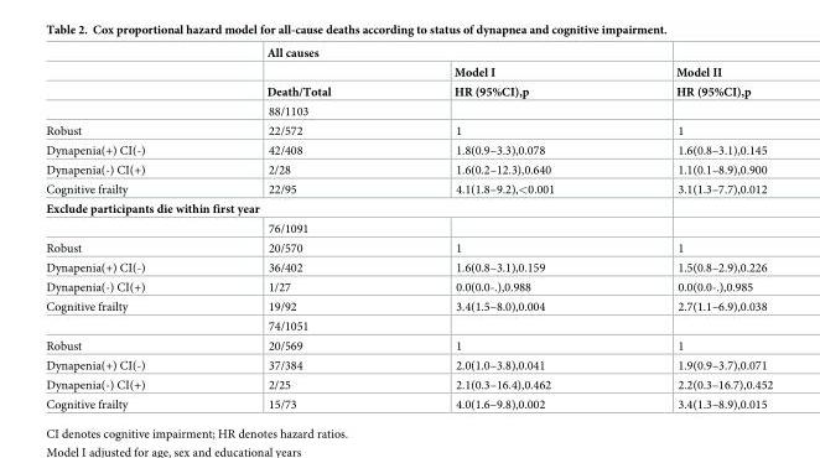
<table><thead><tr><td rowspan="3"></td><td colspan="2">All causes</td><td rowspan="3">Model II HR (95%CI),p</td></tr><tr><td rowspan="2">Death/Total</td><td rowspan="2">Model I HR (95%CI),p</td></tr><tr></tr></thead><tbody><tr><td></td><td>88/1103</td><td></td><td></td></tr><tr><td>Robust</td><td>22/572</td><td>1</td><td>1</td></tr><tr><td>Dynapenia(+) CI(-)</td><td>42/408</td><td>1.8(0.9–3.3),0.078</td><td>1.6(0.8–3.1),0.145</td></tr><tr><td>Dynapenia(-) CI(+)</td><td>2/28</td><td>1.6(0.2–12.3),0.640</td><td>1.1(0.1–8.9),0.900</td></tr><tr><td>Cognitive frailty</td><td>22/95</td><td>4.1(1.8–9.2),&lt;0.001</td><td>3.1(1.3–7.7),0.012</td></tr><tr><td colspan="4">Exclude participants die within first year</td></tr><tr><td></td><td>76/1091</td><td></td><td></td></tr><tr><td>Robust</td><td>20/570</td><td>1</td><td>1</td></tr><tr><td>Dynapenia(+) CI(-)</td><td>36/402</td><td>1.6(0.8–3.1),0.159</td><td>1.5(0.8–2.9),0.226</td></tr><tr><td>Dynapenia(-) CI(+)</td><td>1/27</td><td>0.0(0.0-.),0.988</td><td>0.0(0.0-.),0.985</td></tr><tr><td rowspan="2">Cognitive frailty</td><td>19/92</td><td>3.4(1.5–8.0),0.004</td><td>2.7(1.1–6.9),0.038</td></tr><tr><td>74/1051</td><td></td><td></td></tr><tr><td>Robust</td><td>20/569</td><td>1</td><td>1</td></tr><tr><td>Dynapenia(+) CI(-)</td><td>37/384</td><td>2.0(1.0–3.8),0.041</td><td>1.9(0.9–3.7),0.071</td></tr><tr><td>Dynapenia(-) CI(+)</td><td>2/25</td><td>2.1(0.3–16.4),0.462</td><td>2.2(0.3–16.7),0.452</td></tr><tr><td>Cognitive frailty</td><td>15/73</td><td>4.0(1.6–9.8),0.002</td><td>3.4(1.3–8.9),0.015</td></tr></tbody></table>